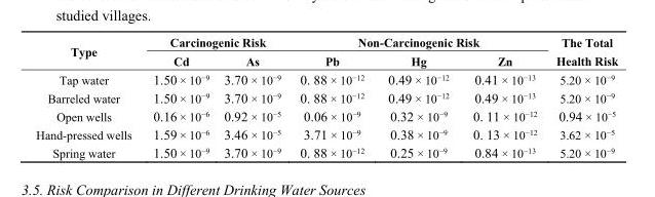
<table><thead><tr><td rowspan="2">Type</td><td colspan="2">Carcinogenic Risk</td><td colspan="3">Non-Carcinogenic Risk</td><td rowspan="2">The Total Health Risk</td></tr><tr><td>Cd</td><td>As</td><td>Pb</td><td>Hg</td><td>Zn</td></tr></thead><tbody><tr><td>Tap water</td><td>1.50 × 10<sup>−9</sup></td><td>3.70 × 10<sup>−9</sup></td><td>0. 88 × 10<sup>−12</sup></td><td>0.49 × 10<sup>−12</sup></td><td>0.41 × 10<sup>−13</sup></td><td>5.20 × 10<sup>−9</sup></td></tr><tr><td>Barreled water</td><td>1.50 × 10<sup>−9</sup></td><td>3.70 × 10<sup>−9</sup></td><td>0. 88 × 10<sup>−12</sup></td><td>0.49 × 10<sup>−12</sup></td><td>0.49 × 10<sup>−13</sup></td><td>5.20 × 10<sup>−9</sup></td></tr><tr><td>Open wells</td><td>0.16 × 10<sup>−6</sup></td><td>0.92 × 10<sup>−5</sup></td><td>0.06 × 10<sup>−9</sup></td><td>0.32 × 10<sup>−9</sup></td><td>0. 11 × 10<sup>−12</sup></td><td>0.94 × 10<sup>−5</sup></td></tr><tr><td>Hand-pressed wells</td><td>1.59 × 10<sup>−6</sup></td><td>3.46 × 10<sup>−5</sup></td><td>3.71 × 10<sup>−9</sup></td><td>0.38 × 10<sup>−9</sup></td><td>0. 13 × 10<sup>−12</sup></td><td>3.62 × 10<sup>−5</sup></td></tr><tr><td>Spring water</td><td>1.50 × 10<sup>−9</sup></td><td>3.70 × 10<sup>−9</sup></td><td>0. 88 × 10<sup>−12</sup></td><td>0.25 × 10<sup>−9</sup></td><td>0.84 × 10<sup>−13</sup></td><td>5.20 × 10<sup>−9</sup></td></tr></tbody></table>